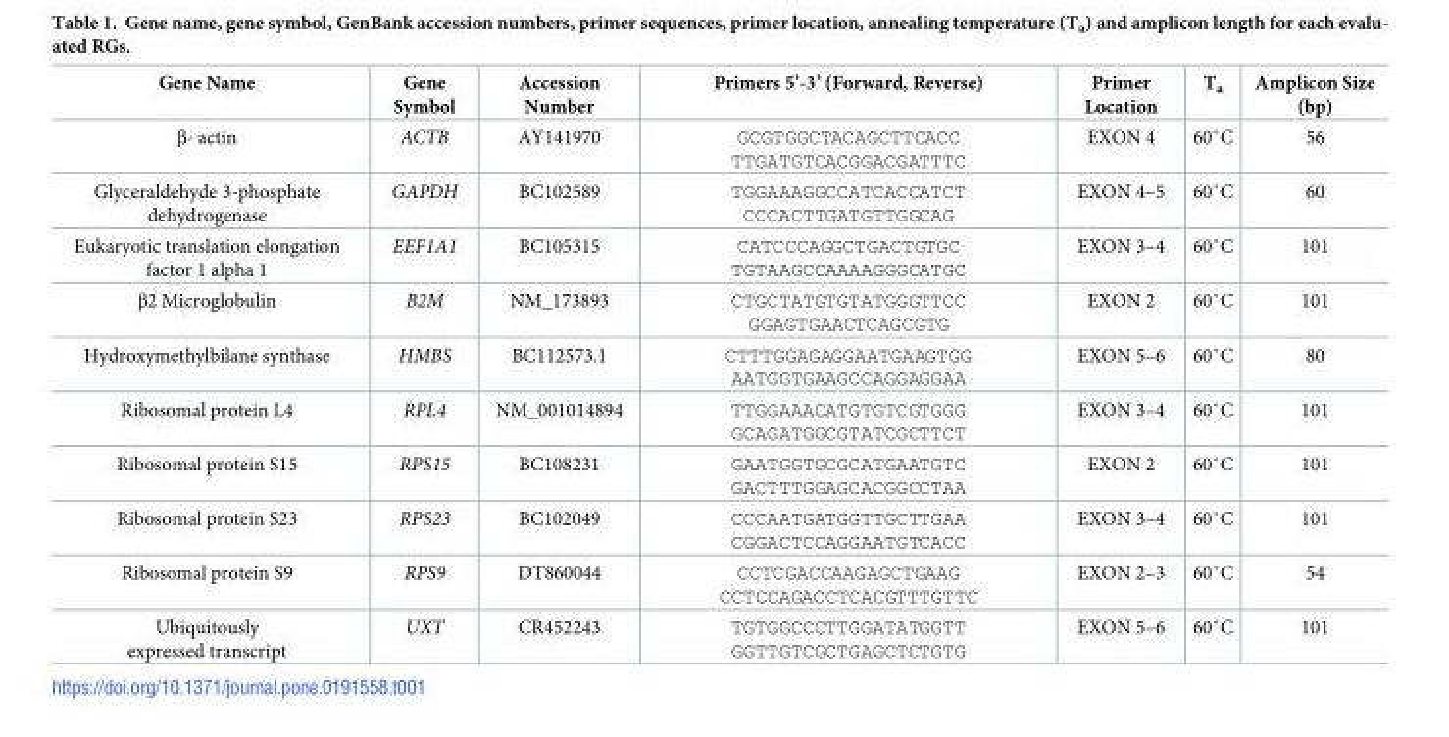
<table><thead><tr><td>Gene Name</td><td>Gene Symbol</td><td>Accession Number</td><td>Primers 5’-3’ (Forward, Reverse)</td><td>Primer Location</td><td>T<sub>a</sub></td><td>Amplicon Size (bp)</td></tr></thead><tbody><tr><td>β- actin</td><td>ACTB</td><td>AY141970</td><td>GCGTGGCTACAGCTTCACC TTGATGTCACGGACGATTTC</td><td>EXON 4</td><td>60˚C</td><td>56</td></tr><tr><td>Glyceraldehyde 3-phosphate dehydrogenase</td><td>GAPDH</td><td>BC102589</td><td>TGGAAAGGCCATCACCATCT CCCACTTGATGTTGGCAG</td><td>EXON 4–5</td><td>60˚C</td><td>60</td></tr><tr><td>Eukaryotic translation elongation factor 1 alpha 1</td><td>EEF1A1</td><td>BC105315</td><td>CATCCCAGGCTGACTGTGC TGTAAGCCAAAAGGGCATGC</td><td>EXON 3–4</td><td>60˚C</td><td>101</td></tr><tr><td>β2 Microglobulin</td><td>B2M</td><td>NM_173893</td><td>CTGCTATGTGTATGGGTTCC GGAGTGAACTCAGCGTG</td><td>EXON 2</td><td>60˚C</td><td>101</td></tr><tr><td>Hydroxymethylbilane synthase</td><td>HMBS</td><td>BC112573.1</td><td>CTTTGGAGAGGAATGAAGTGG AATGGTGAAGCCAGGAGGAA</td><td>EXON 5–6</td><td>60˚C</td><td>80</td></tr><tr><td>Ribosomal protein L4</td><td>RPL4</td><td>NM_001014894</td><td>TTGGAAACATGTGTCGTGGG GCAGATGGCGTATCGCTTCT</td><td>EXON 3–4</td><td>60˚C</td><td>101</td></tr><tr><td>Ribosomal protein S15</td><td>RPS15</td><td>BC108231</td><td>GAATGGTGCGCATGAATGTC GACTTTGGAGCACGGCCTAA</td><td>EXON 2</td><td>60˚C</td><td>101</td></tr><tr><td>Ribosomal protein S23</td><td>RPS23</td><td>BC102049</td><td>CCCAATGATGGTTGCTTGAA CGGACTCCAGGAATGTCACC</td><td>EXON 3–4</td><td>60˚C</td><td>101</td></tr><tr><td>Ribosomal protein S9</td><td>RPS9</td><td>DT860044</td><td>CCTCGACCAAGAGCTGAAG CCTCCAGACCTCACGTTTGTTC</td><td>EXON 2–3</td><td>60˚C</td><td>54</td></tr><tr><td>Ubiquitously expressed transcript</td><td>UXT</td><td>CR452243</td><td>TGTGGCCCTTGGATATGGTT GGTTGTCGCTGAGCTCTGTG</td><td>EXON 5–6</td><td>60˚C</td><td>101</td></tr></tbody></table>